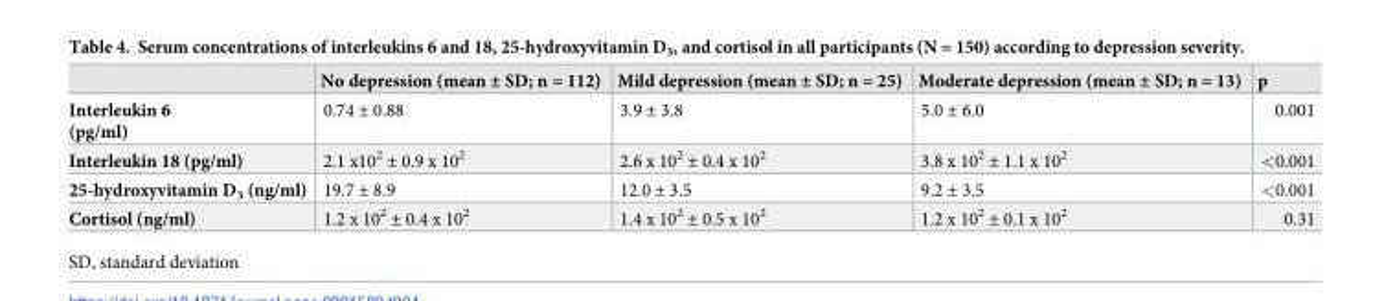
<table><thead><tr><td></td><td>No depression (mean ± SD; n = 112)</td><td>Mild depression (mean ± SD; n = 25)</td><td>Moderate depression (mean ± SD; n = 13)</td><td>p</td></tr></thead><tbody><tr><td>Interleukin 6 (pg/ml)</td><td>0.74 ± 0.88</td><td>3.9 ± 3.8</td><td>5.0 ± 6.0</td><td>0.001</td></tr><tr><td>Interleukin 18 (pg/ml)</td><td>2.1 x10<sup>2</sup> ± 0.9 x 10<sup>2</sup></td><td>2.6 x 10<sup>2</sup> ± 0.4 x 10<sup>2</sup></td><td>3.8 x 10<sup>2</sup> ± 1.1 x 10<sup>2</sup></td><td>&lt;0.001</td></tr><tr><td>25-hydroxyvitamin D<sub>3</sub> (ng/ml)</td><td>19.7 ± 8.9</td><td>12.0 ± 3.5</td><td>9.2 ± 3.5</td><td>&lt;0.001</td></tr><tr><td>Cortisol (ng/ml)</td><td>1.2 x 10<sup>2</sup> ± 0.4 x 10<sup>2</sup></td><td>1.4 x 10<sup>2</sup> ± 0.5 x 10<sup>2</sup></td><td>1.2 x 10<sup>2</sup> ± 0.1 x 10<sup>2</sup></td><td>0.31</td></tr></tbody></table>